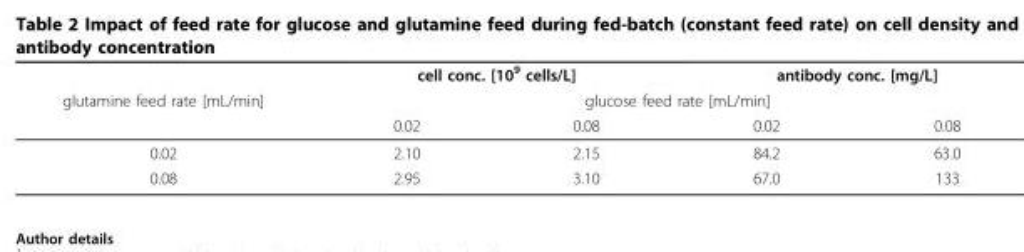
<table><thead><tr><td rowspan="3">glutamine feed rate [mL/min]</td><td colspan="2">cell conc. [10<sup>9</sup> cells/L]</td><td colspan="2">antibody conc. [mg/L]</td></tr><tr><td colspan="4">glucose feed rate [mL/min]</td></tr><tr><td>0.02</td><td>0.08</td><td>0.02</td><td>0.08</td></tr></thead><tbody><tr><td>0.02</td><td>2.10</td><td>2.15</td><td>84.2</td><td>63.0</td></tr><tr><td>0.08</td><td>2.95</td><td>3.10</td><td>67.0</td><td>133</td></tr></tbody></table>